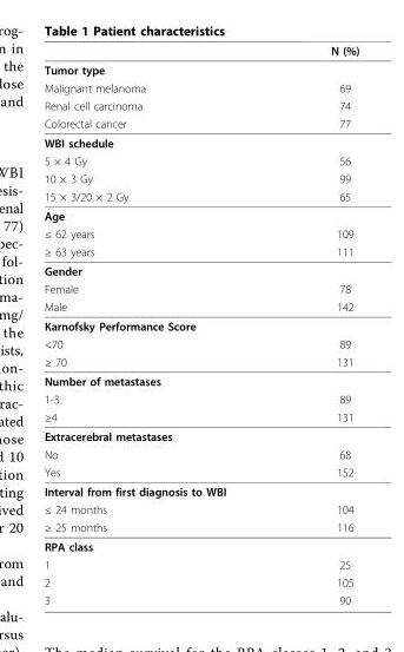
<table><thead><tr><td></td><td>N (%)</td></tr></thead><tbody><tr><td colspan="2">Tumor type</td></tr><tr><td>Malignant melanoma</td><td>69</td></tr><tr><td>Renal cell carcinoma</td><td>74</td></tr><tr><td>Colorectal cancer</td><td>77</td></tr><tr><td colspan="2">WBI schedule</td></tr><tr><td>5 × 4 Gy</td><td>56</td></tr><tr><td>10 × 3 Gy</td><td>99</td></tr><tr><td>15 × 3/20 × 2 Gy</td><td>65</td></tr><tr><td colspan="2">Age</td></tr><tr><td>≤ 62 years</td><td>109</td></tr><tr><td>≥ 63 years</td><td>111</td></tr><tr><td colspan="2">Gender</td></tr><tr><td>Female</td><td>78</td></tr><tr><td>Male</td><td>142</td></tr><tr><td colspan="2">Karnofsky Performance Score</td></tr><tr><td>&lt;70</td><td>89</td></tr><tr><td>≥ 70</td><td>131</td></tr><tr><td colspan="2">Number of metastases</td></tr><tr><td>1-3</td><td>89</td></tr><tr><td>≥4</td><td>131</td></tr><tr><td colspan="2">Extracerebral metastases</td></tr><tr><td>No</td><td>68</td></tr><tr><td>Yes</td><td>152</td></tr><tr><td colspan="2">Interval from first diagnosis to WBI</td></tr><tr><td>≤ 24 months</td><td>104</td></tr><tr><td>≥ 25 months</td><td>116</td></tr><tr><td colspan="2">RPA class</td></tr><tr><td>1</td><td>25</td></tr><tr><td>2</td><td>105</td></tr><tr><td>3</td><td>90</td></tr></tbody></table>